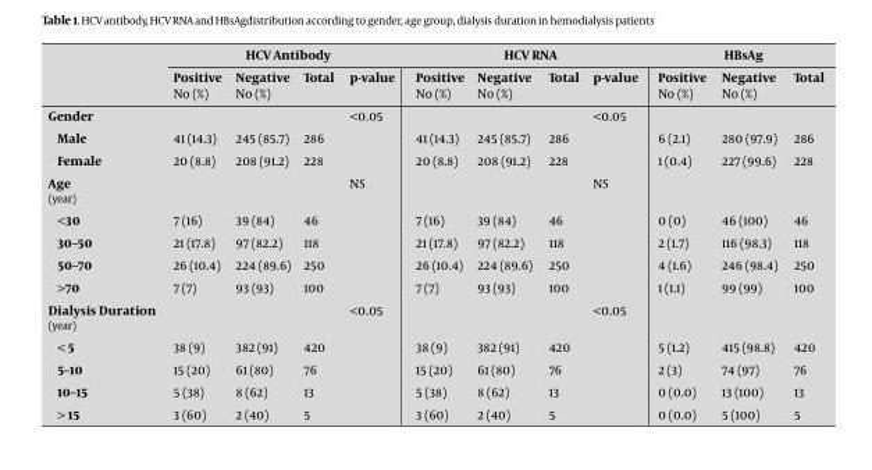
<table><thead><tr><td rowspan="2"></td><td colspan="4">HCV Antibody</td><td colspan="4">HCV RNA</td><td colspan="3">HBsAg</td></tr><tr><td>Positive No (%)</td><td>Negative No (%)</td><td>Total</td><td>p-value</td><td>Positive No (%)</td><td>Negative No (%)</td><td>Total</td><td>p-value</td><td>Positive No (%)</td><td>Negative No (%)</td><td>Total</td></tr></thead><tbody><tr><td colspan="4">Gender</td><td>&lt;0.05</td><td colspan="3"></td><td>&lt;0.05</td><td colspan="3"></td></tr><tr><td>Male</td><td>41 (14.3)</td><td>245 (85.7)</td><td>286</td><td rowspan="2"></td><td>41 (14.3)</td><td>245 (85.7)</td><td>286</td><td rowspan="2"></td><td>6 (2.1)</td><td>280 (97.9)</td><td>286</td></tr><tr><td>Female</td><td>20 (8.8)</td><td>208 (91.2)</td><td>228</td><td>20 (8.8)</td><td>208 (91.2)</td><td>228</td><td>1 (0.4)</td><td>227 (99.6)</td><td>228</td></tr><tr><td colspan="4">Age (year)</td><td>NS</td><td colspan="3"></td><td>NS</td><td colspan="3"></td></tr><tr><td>&lt;30</td><td>7 (16)</td><td>39 (84)</td><td>46</td><td rowspan="4"></td><td>7 (16)</td><td>39 (84)</td><td>46</td><td rowspan="4"></td><td>0 (0)</td><td>46 (100)</td><td>46</td></tr><tr><td>30–50</td><td>21 (17.8)</td><td>97 (82.2)</td><td>118</td><td>21 (17.8)</td><td>97 (82.2)</td><td>118</td><td>2 (1.7)</td><td>116 (98.3)</td><td>118</td></tr><tr><td>50–70</td><td>26 (10.4)</td><td>224 (89.6)</td><td>250</td><td>26 (10.4)</td><td>224 (89.6)</td><td>250</td><td>4 (1.6)</td><td>246 (98.4)</td><td>250</td></tr><tr><td>&gt;70</td><td>7 (7)</td><td>93 (93)</td><td>100</td><td>7 (7)</td><td>93 (93)</td><td>100</td><td>1 (1.1)</td><td>99 (99)</td><td>100</td></tr><tr><td colspan="4">Dialysis Duration (year)</td><td>&lt;0.05</td><td colspan="3"></td><td>&lt;0.05</td><td colspan="3"></td></tr><tr><td>&lt; 5</td><td>38 (9)</td><td>382 (91)</td><td>420</td><td rowspan="4"></td><td>38 (9)</td><td>382 (91)</td><td>420</td><td rowspan="4"></td><td>5 (1.2)</td><td>415 (98.8)</td><td>420</td></tr><tr><td>5–10</td><td>15 (20)</td><td>61 (80)</td><td>76</td><td>15 (20)</td><td>61 (80)</td><td>76</td><td>2 (3)</td><td>74 (97)</td><td>76</td></tr><tr><td>10–15</td><td>5 (38)</td><td>8 (62)</td><td>13</td><td>5 (38)</td><td>8 (62)</td><td>13</td><td>0 (0.0)</td><td>13 (100)</td><td>13</td></tr><tr><td>&gt; 15</td><td>3 (60)</td><td>2 (40)</td><td>5</td><td>3 (60)</td><td>2 (40)</td><td>5</td><td>0 (0.0)</td><td>5 (100)</td><td>5</td></tr></tbody></table>